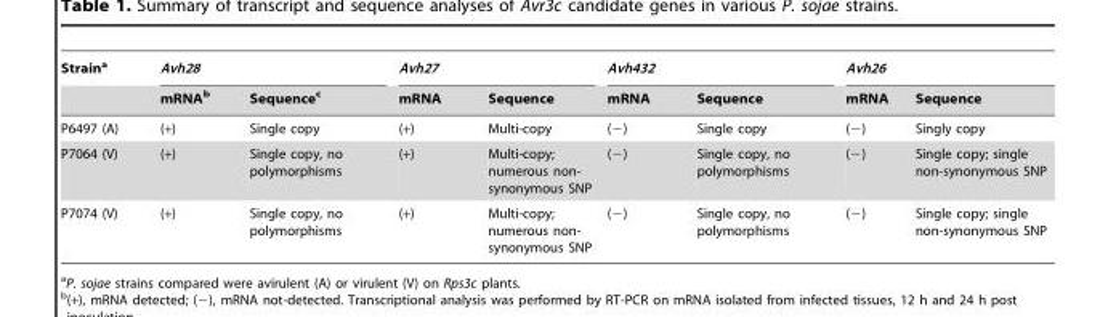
<table><thead><tr><td rowspan="2">Strain<sup>a</sup></td><td colspan="2">Avh28</td><td colspan="2">Avh27</td><td colspan="2">Avh432</td><td colspan="2">Avh26</td></tr><tr><td>mRNA<sup>b</sup></td><td>Sequence<sup>c</sup></td><td>mRNA</td><td>Sequence</td><td>mRNA</td><td>Sequence</td><td>mRNA</td><td>Sequence</td></tr></thead><tbody><tr><td>P6497 (A)</td><td>(+)</td><td>Single copy</td><td>(+)</td><td>Multi-copy</td><td>(−)</td><td>Single copy</td><td>(−)</td><td>Singly copy</td></tr><tr><td>P7064 (V)</td><td>(+)</td><td>Single copy, no polymorphisms</td><td>(+)</td><td>Multi-copy; numerous non- synonymous SNP</td><td>(−)</td><td>Single copy, no polymorphisms</td><td>(−)</td><td>Single copy; single non-synonymous SNP</td></tr><tr><td>P7074 (V)</td><td>(+)</td><td>Single copy, no polymorphisms</td><td>(+)</td><td>Multi-copy; numerous non- synonymous SNP</td><td>(−)</td><td>Single copy, no polymorphisms</td><td>(−)</td><td>Single copy; single non-synonymous SNP</td></tr></tbody></table>